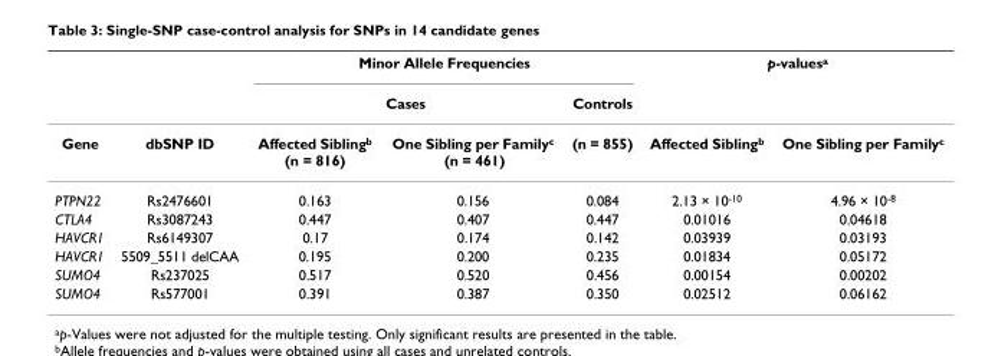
<table><thead><tr><td rowspan="3">Gene</td><td rowspan="3">dbSNP ID</td><td colspan="3">Minor Allele Frequencies</td><td colspan="2">p-values<sup>a</sup></td></tr><tr><td colspan="2">Cases</td><td rowspan="2">Controls (n = 855)</td><td rowspan="2">Affected Sibling<sup>b</sup></td><td rowspan="2">One Sibling per Family<sup>c</sup></td></tr><tr><td>Affected Sibling<sup>b</sup> (n = 816)</td><td>One Sibling per Family<sup>c</sup> (n = 461)</td></tr></thead><tbody><tr><td>PTPN22</td><td>Rs2476601</td><td>0.163</td><td>0.156</td><td>0.084</td><td>2.13 × 10<sup>-10</sup></td><td>4.96 × 10<sup>-8</sup></td></tr><tr><td>CTLA4</td><td>Rs3087243</td><td>0.447</td><td>0.407</td><td>0.447</td><td>0.01016</td><td>0.04618</td></tr><tr><td>HAVCR1</td><td>Rs6149307</td><td>0.17</td><td>0.174</td><td>0.142</td><td>0.03939</td><td>0.03193</td></tr><tr><td>HAVCR1</td><td>5509_5511 delCAA</td><td>0.195</td><td>0.200</td><td>0.235</td><td>0.01834</td><td>0.05172</td></tr><tr><td>SUMO4</td><td>Rs237025</td><td>0.517</td><td>0.520</td><td>0.456</td><td>0.00154</td><td>0.00202</td></tr><tr><td>SUMO4</td><td>Rs577001</td><td>0.391</td><td>0.387</td><td>0.350</td><td>0.02512</td><td>0.06162</td></tr></tbody></table>